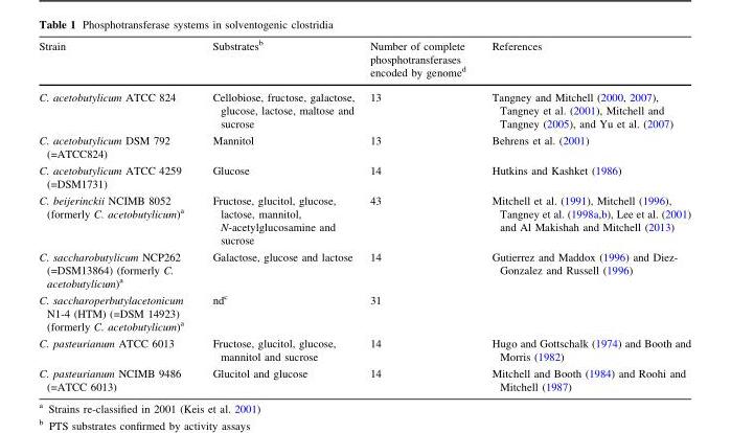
<table><thead><tr><td>Strain</td><td>Substrates<sup>b</sup></td><td>Number of complete phosphotransferases encoded by genome<sup>d</sup></td><td>References</td></tr></thead><tbody><tr><td>C. acetobutylicum ATCC 824</td><td>Cellobiose, fructose, galactose, glucose, lactose, maltose and sucrose</td><td>13</td><td>Tangney and Mitchell (2000, 2007), Tangney et al. (2001), Mitchell and Tangney (2005), and Yu et al. (2007)</td></tr><tr><td>C. acetobutylicum DSM 792 (=ATCC824)</td><td>Mannitol</td><td>13</td><td>Behrens et al. (2001)</td></tr><tr><td>C. acetobutylicum ATCC 4259 (=DSM1731)</td><td>Glucose</td><td>14</td><td>Hutkins and Kashket (1986)</td></tr><tr><td>C. beijerinckii NCIMB 8052 (formerly C. acetobutylicum)<sup>a</sup></td><td>Fructose, glucitol, glucose, lactose, mannitol, N-acetylglucosamine and sucrose</td><td>43</td><td>Mitchell et al. (1991), Mitchell (1996), Tangney et al. (1998a,b), Lee et al. (2001) and Al Makishah and Mitchell (2013)</td></tr><tr><td>C. saccharobutylicum NCP262 (=DSM13864) (formerly C. acetobutylicum)<sup>a</sup></td><td>Galactose, glucose and lactose</td><td>14</td><td>Gutierrez and Maddox (1996) and Diez- Gonzalez and Russell (1996)</td></tr><tr><td>C. saccharoperbutylacetonicum N1-4 (HTM) (=DSM 14923) (formerly C. acetobutylicum)<sup>a</sup></td><td>nd<sup>c</sup></td><td>31</td><td></td></tr><tr><td>C. pasteurianum ATCC 6013</td><td>Fructose, glucitol, glucose, mannitol and sucrose</td><td>14</td><td>Hugo and Gottschalk (1974) and Booth and Morris (1982)</td></tr><tr><td>C. pasteurianum NCIMB 9486 (=ATCC 6013)</td><td>Glucitol and glucose</td><td>14</td><td>Mitchell and Booth (1984) and Roohi and Mitchell (1987)</td></tr></tbody></table>